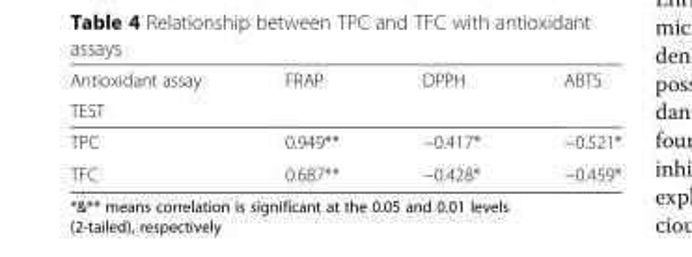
<table><thead><tr><td rowspan="2">Antioxidant assay TEST</td><td rowspan="2">FRAP</td><td rowspan="2">DPPH</td><td rowspan="2">ABTS</td></tr><tr></tr></thead><tbody><tr><td>TPC</td><td>0.949**</td><td>−0.417*</td><td>−0.521*</td></tr><tr><td>TFC</td><td>0.687**</td><td>−0.428*</td><td>−0.459*</td></tr></tbody></table>